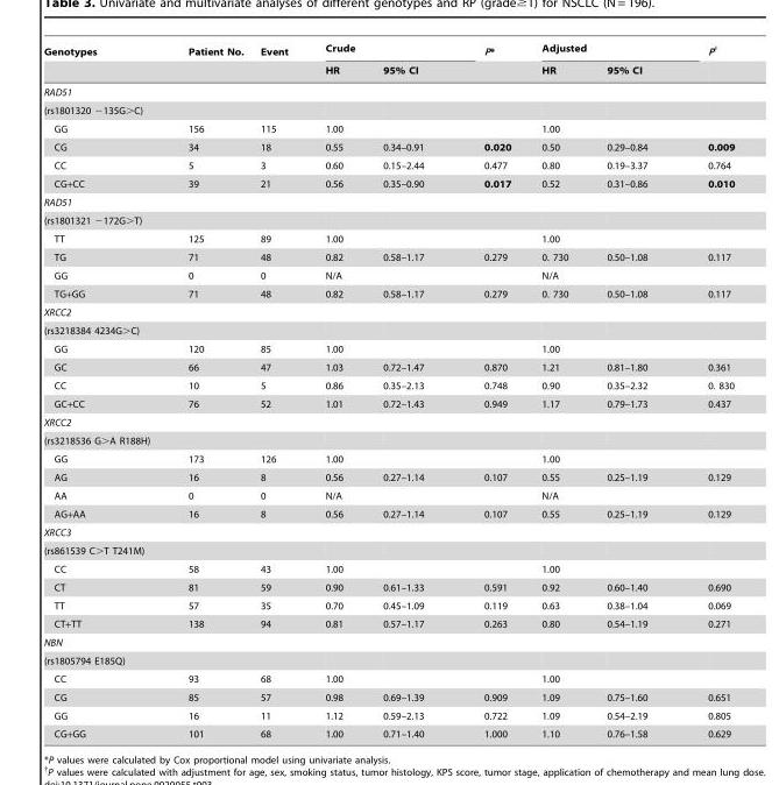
<table><thead><tr><td rowspan="2">Genotypes</td><td rowspan="2">Patient No.</td><td rowspan="2">Event</td><td colspan="2">Crude</td><td rowspan="2">P*</td><td colspan="2">Adjusted</td><td rowspan="2">P†</td></tr><tr><td>HR</td><td>95% CI</td><td>HR</td><td>95% CI</td></tr></thead><tbody><tr><td colspan="9">RAD51</td></tr><tr><td colspan="9">(rs1801320 −135G&gt;C)</td></tr><tr><td>GG</td><td>156</td><td>115</td><td>1.00</td><td></td><td></td><td>1.00</td><td></td><td></td></tr><tr><td>CG</td><td>34</td><td>18</td><td>0.55</td><td>0.34–0.91</td><td>0.020</td><td>0.50</td><td>0.29–0.84</td><td>0.009</td></tr><tr><td>CC</td><td>5</td><td>3</td><td>0.60</td><td>0.15–2.44</td><td>0.477</td><td>0.80</td><td>0.19–3.37</td><td>0.764</td></tr><tr><td>CG+CC</td><td>39</td><td>21</td><td>0.56</td><td>0.35–0.90</td><td>0.017</td><td>0.52</td><td>0.31–0.86</td><td>0.010</td></tr><tr><td colspan="9">RAD51</td></tr><tr><td colspan="9">(rs1801321 −172G&gt;T)</td></tr><tr><td>TT</td><td>125</td><td>89</td><td>1.00</td><td></td><td></td><td>1.00</td><td></td><td></td></tr><tr><td>TG</td><td>71</td><td>48</td><td>0.82</td><td>0.58–1.17</td><td>0.279</td><td>0. 730</td><td>0.50–1.08</td><td>0.117</td></tr><tr><td>GG</td><td>0</td><td>0</td><td>N/A</td><td></td><td></td><td>N/A</td><td></td><td></td></tr><tr><td>TG+GG</td><td>71</td><td>48</td><td>0.82</td><td>0.58–1.17</td><td>0.279</td><td>0. 730</td><td>0.50–1.08</td><td>0.117</td></tr><tr><td colspan="9">XRCC2</td></tr><tr><td colspan="9">(rs3218384 4234G&gt;C)</td></tr><tr><td>GG</td><td>120</td><td>85</td><td>1.00</td><td></td><td></td><td>1.00</td><td></td><td></td></tr><tr><td>GC</td><td>66</td><td>47</td><td>1.03</td><td>0.72–1.47</td><td>0.870</td><td>1.21</td><td>0.81–1.80</td><td>0.361</td></tr><tr><td>CC</td><td>10</td><td>5</td><td>0.86</td><td>0.35–2.13</td><td>0.748</td><td>0.90</td><td>0.35–2.32</td><td>0. 830</td></tr><tr><td>GC+CC</td><td>76</td><td>52</td><td>1.01</td><td>0.72–1.43</td><td>0.949</td><td>1.17</td><td>0.79–1.73</td><td>0.437</td></tr><tr><td colspan="9">XRCC2</td></tr><tr><td colspan="9">(rs3218536 G&gt;A R188H)</td></tr><tr><td>GG</td><td>173</td><td>126</td><td>1.00</td><td></td><td></td><td>1.00</td><td></td><td></td></tr><tr><td>AG</td><td>16</td><td>8</td><td>0.56</td><td>0.27–1.14</td><td>0.107</td><td>0.55</td><td>0.25–1.19</td><td>0.129</td></tr><tr><td>AA</td><td>0</td><td>0</td><td>N/A</td><td></td><td></td><td>N/A</td><td></td><td></td></tr><tr><td>AG+AA</td><td>16</td><td>8</td><td>0.56</td><td>0.27–1.14</td><td>0.107</td><td>0.55</td><td>0.25–1.19</td><td>0.129</td></tr><tr><td colspan="9">XRCC3</td></tr><tr><td colspan="9">(rs861539 C&gt;T T241M)</td></tr><tr><td>CC</td><td>58</td><td>43</td><td>1.00</td><td></td><td></td><td>1.00</td><td></td><td></td></tr><tr><td>CT</td><td>81</td><td>59</td><td>0.90</td><td>0.61–1.33</td><td>0.591</td><td>0.92</td><td>0.60–1.40</td><td>0.690</td></tr><tr><td>TT</td><td>57</td><td>35</td><td>0.70</td><td>0.45–1.09</td><td>0.119</td><td>0.63</td><td>0.38–1.04</td><td>0.069</td></tr><tr><td>CT+TT</td><td>138</td><td>94</td><td>0.81</td><td>0.57–1.17</td><td>0.263</td><td>0.80</td><td>0.54–1.19</td><td>0.271</td></tr><tr><td colspan="9">NBN</td></tr><tr><td colspan="9">(rs1805794 E185Q)</td></tr><tr><td>CC</td><td>93</td><td>68</td><td>1.00</td><td></td><td></td><td>1.00</td><td></td><td></td></tr><tr><td>CG</td><td>85</td><td>57</td><td>0.98</td><td>0.69–1.39</td><td>0.909</td><td>1.09</td><td>0.75–1.60</td><td>0.651</td></tr><tr><td>GG</td><td>16</td><td>11</td><td>1.12</td><td>0.59–2.13</td><td>0.722</td><td>1.09</td><td>0.54–2.19</td><td>0.805</td></tr><tr><td>CG+GG</td><td>101</td><td>68</td><td>1.00</td><td>0.71–1.40</td><td>1.000</td><td>1.10</td><td>0.76–1.58</td><td>0.629</td></tr></tbody></table>